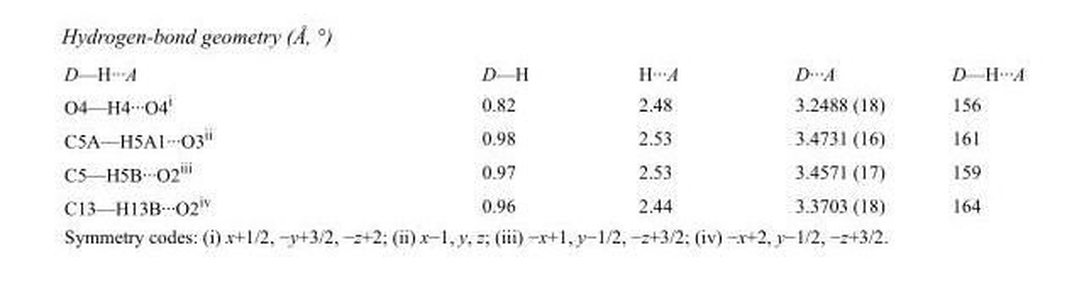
<table><tbody><tr><td>D—H···A</td><td>D—H</td><td>H···A</td><td>D···A</td><td>D—H···A</td></tr><tr><td>O4—H4···O4<sup>i</sup></td><td>0.82</td><td>2.48</td><td>3.2488 (18)</td><td>156</td></tr><tr><td>C5A—H5A1···O3<sup>ii</sup></td><td>0.98</td><td>2.53</td><td>3.4731 (16)</td><td>161</td></tr><tr><td>C5—H5B···O2<sup>iii</sup></td><td>0.97</td><td>2.53</td><td>3.4571 (17)</td><td>159</td></tr><tr><td>C13—H13B···O2<sup>iv</sup></td><td>0.96</td><td>2.44</td><td>3.3703 (18)</td><td>164</td></tr></tbody></table>